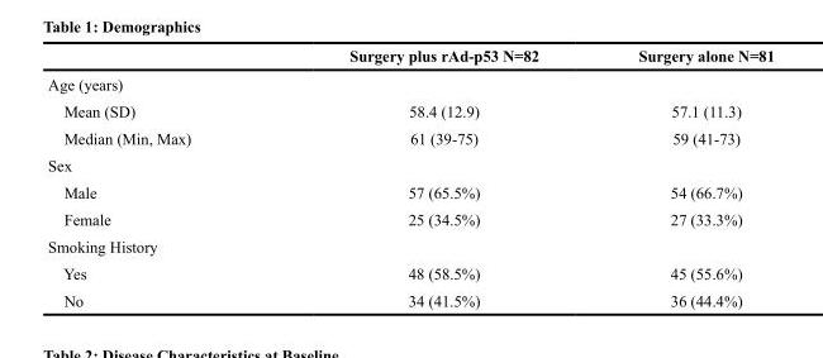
<table><thead><tr><td></td><td>Surgery plus rAd-p53 N=82</td><td>Surgery alone N=81</td></tr></thead><tbody><tr><td colspan="3">Age (years)</td></tr><tr><td>Mean (SD)</td><td>58.4 (12.9)</td><td>57.1 (11.3)</td></tr><tr><td>Median (Min, Max)</td><td>61 (39-75)</td><td>59 (41-73)</td></tr><tr><td colspan="3">Sex</td></tr><tr><td>Male</td><td>57 (65.5%)</td><td>54 (66.7%)</td></tr><tr><td>Female</td><td>25 (34.5%)</td><td>27 (33.3%)</td></tr><tr><td colspan="3">Smoking History</td></tr><tr><td>Yes</td><td>48 (58.5%)</td><td>45 (55.6%)</td></tr><tr><td>No</td><td>34 (41.5%)</td><td>36 (44.4%)</td></tr></tbody></table>